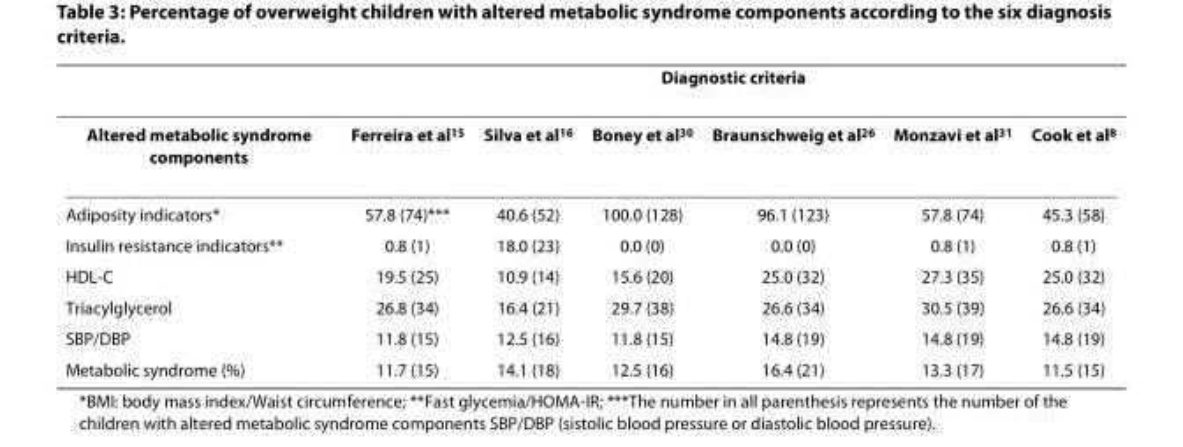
<table><thead><tr><td rowspan="2">Altered metabolic syndrome components</td><td colspan="6">Diagnostic criteria</td></tr><tr><td>Ferreira et al<sup>15</sup></td><td>Silva et al<sup>16</sup></td><td>Boney et al<sup>30</sup></td><td>Braunschweig et al<sup>26</sup></td><td>Monzavi et al<sup>31</sup></td><td>Cook et al<sup>8</sup></td></tr></thead><tbody><tr><td>Adiposity indicators*</td><td>57.8 (74)***</td><td>40.6 (52)</td><td>100.0 (128)</td><td>96.1 (123)</td><td>57.8 (74)</td><td>45.3 (58)</td></tr><tr><td>Insulin resistance indicators**</td><td>0.8 (1)</td><td>18.0 (23)</td><td>0.0 (0)</td><td>0.0 (0)</td><td>0.8 (1)</td><td>0.8 (1)</td></tr><tr><td>HDL-C</td><td>19.5 (25)</td><td>10.9 (14)</td><td>15.6 (20)</td><td>25.0 (32)</td><td>27.3 (35)</td><td>25.0 (32)</td></tr><tr><td>Triacylglycerol</td><td>26.8 (34)</td><td>16.4 (21)</td><td>29.7 (38)</td><td>26.6 (34)</td><td>30.5 (39)</td><td>26.6 (34)</td></tr><tr><td>SBP/DBP</td><td>11.8 (15)</td><td>12.5 (16)</td><td>11.8 (15)</td><td>14.8 (19)</td><td>14.8 (19)</td><td>14.8 (19)</td></tr><tr><td>Metabolic syndrome (%)</td><td>11.7 (15)</td><td>14.1 (18)</td><td>12.5 (16)</td><td>16.4 (21)</td><td>13.3 (17)</td><td>11.5 (15)</td></tr></tbody></table>